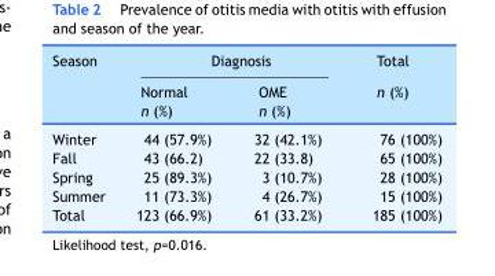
<table><thead><tr><td rowspan="2">Season</td><td colspan="2">Diagnosis</td><td rowspan="2">Total n (%)</td></tr><tr><td>Normal n (%)</td><td>OME n (%)</td></tr></thead><tbody><tr><td>Winter</td><td>44 (57.9%)</td><td>32 (42.1%)</td><td>76 (100%)</td></tr><tr><td>Fall</td><td>43 (66.2)</td><td>22 (33.8)</td><td>65 (100%)</td></tr><tr><td>Spring</td><td>25 (89.3%)</td><td>3 (10.7%)</td><td>28 (100%)</td></tr><tr><td>Summer</td><td>11 (73.3%)</td><td>4 (26.7%)</td><td>15 (100%)</td></tr><tr><td>Total</td><td>123 (66.9%)</td><td>61 (33.2%)</td><td>185 (100%)</td></tr></tbody></table>